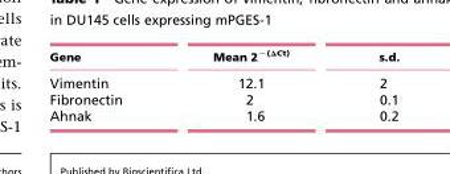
<table><thead><tr><td>Gene</td><td>Mean 2<sup>−(ΔCt)</sup></td><td>s.d.</td></tr></thead><tbody><tr><td>Vimentin</td><td>12.1</td><td>2</td></tr><tr><td>Fibronectin</td><td>2</td><td>0.1</td></tr><tr><td>Ahnak</td><td>1.6</td><td>0.2</td></tr></tbody></table>